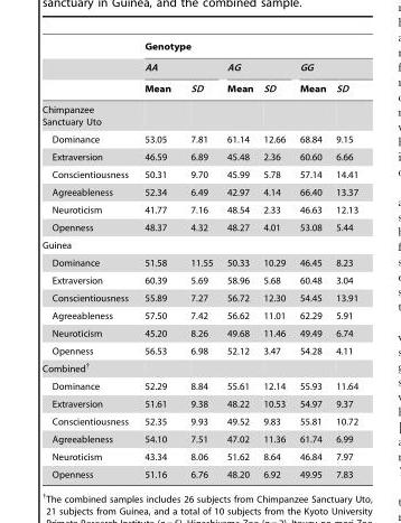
<table><thead><tr><td rowspan="3"></td><td colspan="6">Genotype</td></tr><tr><td colspan="2">AA</td><td colspan="2">AG</td><td colspan="2">GG</td></tr><tr><td>Mean</td><td>SD</td><td>Mean</td><td>SD</td><td>Mean</td><td>SD</td></tr></thead><tbody><tr><td colspan="7">Chimpanzee Sanctuary Uto</td></tr><tr><td>Dominance</td><td>53.05</td><td>7.81</td><td>61.14</td><td>12.66</td><td>68.84</td><td>9.15</td></tr><tr><td>Extraversion</td><td>46.59</td><td>6.89</td><td>45.48</td><td>2.36</td><td>60.60</td><td>6.66</td></tr><tr><td>Conscientiousness</td><td>50.31</td><td>9.70</td><td>45.99</td><td>5.78</td><td>57.14</td><td>14.41</td></tr><tr><td>Agreeableness</td><td>52.34</td><td>6.49</td><td>42.97</td><td>4.14</td><td>66.40</td><td>13.37</td></tr><tr><td>Neuroticism</td><td>41.77</td><td>7.16</td><td>48.54</td><td>2.33</td><td>46.63</td><td>12.13</td></tr><tr><td>Openness</td><td>48.37</td><td>4.32</td><td>48.27</td><td>4.01</td><td>53.08</td><td>5.44</td></tr><tr><td colspan="7">Guinea</td></tr><tr><td>Dominance</td><td>51.58</td><td>11.55</td><td>50.33</td><td>10.29</td><td>46.45</td><td>8.23</td></tr><tr><td>Extraversion</td><td>60.39</td><td>5.69</td><td>58.96</td><td>5.68</td><td>60.48</td><td>3.04</td></tr><tr><td>Conscientiousness</td><td>55.89</td><td>7.27</td><td>56.72</td><td>12.30</td><td>54.45</td><td>13.91</td></tr><tr><td>Agreeableness</td><td>57.50</td><td>7.42</td><td>56.62</td><td>11.01</td><td>62.29</td><td>5.91</td></tr><tr><td>Neuroticism</td><td>45.20</td><td>8.26</td><td>49.68</td><td>11.46</td><td>49.49</td><td>6.74</td></tr><tr><td>Openness</td><td>56.53</td><td>6.98</td><td>52.12</td><td>3.47</td><td>54.28</td><td>4.11</td></tr><tr><td colspan="7">Combined†</td></tr><tr><td>Dominance</td><td>52.29</td><td>8.84</td><td>55.61</td><td>12.14</td><td>55.93</td><td>11.64</td></tr><tr><td>Extraversion</td><td>51.61</td><td>9.38</td><td>48.22</td><td>10.53</td><td>54.97</td><td>9.37</td></tr><tr><td>Conscientiousness</td><td>52.35</td><td>9.93</td><td>49.52</td><td>9.83</td><td>55.81</td><td>10.72</td></tr><tr><td>Agreeableness</td><td>54.10</td><td>7.51</td><td>47.02</td><td>11.36</td><td>61.74</td><td>6.99</td></tr><tr><td>Neuroticism</td><td>43.34</td><td>8.06</td><td>51.62</td><td>8.64</td><td>46.84</td><td>7.97</td></tr><tr><td>Openness</td><td>51.16</td><td>6.76</td><td>48.20</td><td>6.92</td><td>49.95</td><td>7.83</td></tr></tbody></table>